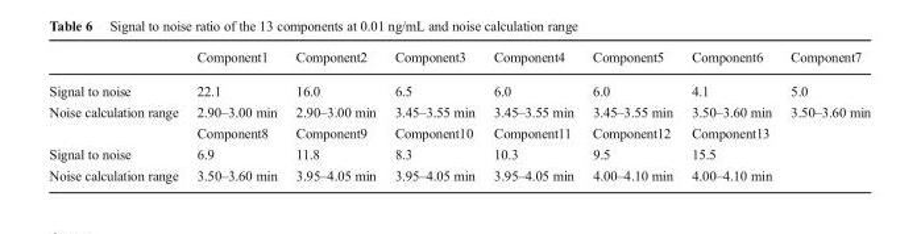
<table><thead><tr><td></td><td>Component1</td><td>Component2</td><td>Component3</td><td>Component4</td><td>Component5</td><td>Component6</td><td>Component7</td></tr></thead><tbody><tr><td>Signal to noise</td><td>22.1</td><td>16.0</td><td>6.5</td><td>6.0</td><td>6.0</td><td>4.1</td><td>5.0</td></tr><tr><td rowspan="2">Noise calculation range</td><td>2.90–3.00 min</td><td>2.90–3.00 min</td><td>3.45–3.55 min</td><td>3.45–3.55 min</td><td>3.45–3.55 min</td><td>3.50–3.60 min</td><td>3.50–3.60 min</td></tr><tr><td>Component8</td><td>Component9</td><td>Component10</td><td>Component11</td><td>Component12</td><td>Component13</td><td></td></tr><tr><td>Signal to noise</td><td>6.9</td><td>11.8</td><td>8.3</td><td>10.3</td><td>9.5</td><td>15.5</td><td></td></tr><tr><td>Noise calculation range</td><td>3.50–3.60 min</td><td>3.95–4.05 min</td><td>3.95–4.05 min</td><td>3.95–4.05 min</td><td>4.00–4.10 min</td><td>4.00–4.10 min</td><td></td></tr></tbody></table>